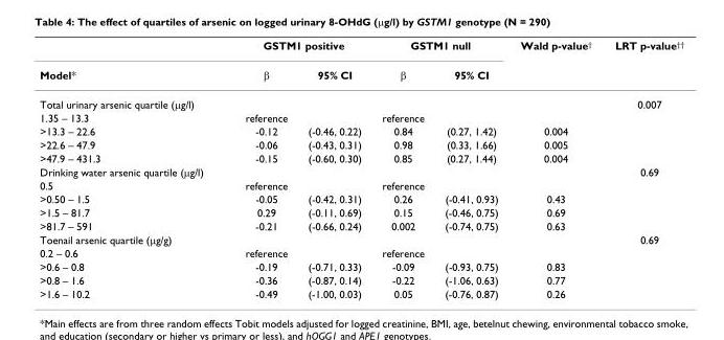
<table><thead><tr><td rowspan="2">Model*</td><td colspan="2">GSTM1 positive</td><td colspan="2">GSTM1 null</td><td rowspan="2">Wald p-value<sup>†</sup></td><td rowspan="2">LRT p-value<sup>††</sup></td></tr><tr><td>β</td><td>95% CI</td><td>β</td><td>95% CI</td></tr></thead><tbody><tr><td>Total urinary arsenic quartile (µg/l)</td><td></td><td></td><td></td><td></td><td></td><td>0.007</td></tr><tr><td>1.35 – 13.3</td><td>reference</td><td></td><td>reference</td><td></td><td></td><td></td></tr><tr><td>&gt;13.3 – 22.6</td><td>-0.12</td><td>(-0.46, 0.22)</td><td>0.84</td><td>(0.27, 1.42)</td><td>0.004</td><td></td></tr><tr><td>&gt;22.6 – 47.9</td><td>-0.06</td><td>(-0.43, 0.31)</td><td>0.98</td><td>(0.33, 1.66)</td><td>0.005</td><td></td></tr><tr><td>&gt;47.9 – 431.3</td><td>-0.15</td><td>(-0.60, 0.30)</td><td>0.85</td><td>(0.27, 1.44)</td><td>0.004</td><td></td></tr><tr><td>Drinking water arsenic quartile (µg/l)</td><td></td><td></td><td></td><td></td><td></td><td>0.69</td></tr><tr><td>0.5</td><td>reference</td><td></td><td>reference</td><td></td><td></td><td></td></tr><tr><td>&gt;0.50 – 1.5</td><td>-0.05</td><td>(-0.42, 0.31)</td><td>0.26</td><td>(-0.41, 0.93)</td><td>0.43</td><td></td></tr><tr><td>&gt;1.5 – 81.7</td><td>0.29</td><td>(-0.11, 0.69)</td><td>0.15</td><td>(-0.46, 0.75)</td><td>0.69</td><td></td></tr><tr><td>&gt;81.7 – 591</td><td>-0.21</td><td>(-0.66, 0.24)</td><td>0.002</td><td>(-0.74, 0.75)</td><td>0.63</td><td></td></tr><tr><td>Toenail arsenic quartile (µg/g)</td><td></td><td></td><td></td><td></td><td></td><td>0.69</td></tr><tr><td>0.2 – 0.6</td><td>reference</td><td></td><td>reference</td><td></td><td></td><td></td></tr><tr><td>&gt;0.6 – 0.8</td><td>-0.19</td><td>(-0.71, 0.33)</td><td>-0.09</td><td>(-0.93, 0.75)</td><td>0.83</td><td></td></tr><tr><td>&gt;0.8 – 1.6</td><td>-0.36</td><td>(-0.87, 0.14)</td><td>-0.22</td><td>(-1.06, 0.63)</td><td>0.77</td><td></td></tr><tr><td>&gt;1.6 – 10.2</td><td>-0.49</td><td>(-1.00, 0.03)</td><td>0.05</td><td>(-0.76, 0.87)</td><td>0.26</td><td></td></tr></tbody></table>